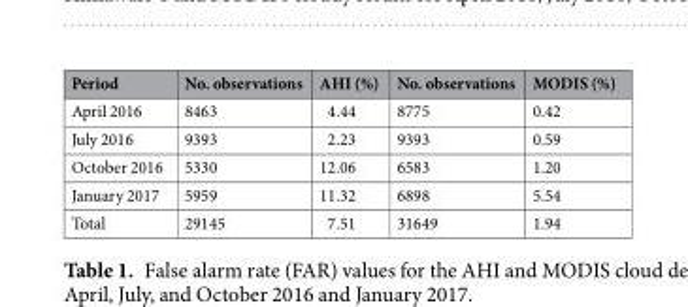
<table><thead><tr><td>Period</td><td>No. observations</td><td>AHI (%)</td><td>No. observations</td><td>MODIS (%)</td></tr></thead><tbody><tr><td>April 2016</td><td>8463</td><td>4.44</td><td>8775</td><td>0.42</td></tr><tr><td>July 2016</td><td>9393</td><td>2.23</td><td>9393</td><td>0.59</td></tr><tr><td>October 2016</td><td>5330</td><td>12.06</td><td>6583</td><td>1.20</td></tr><tr><td>January 2017</td><td>5959</td><td>11.32</td><td>6898</td><td>5.54</td></tr><tr><td>Total</td><td>29145</td><td>7.51</td><td>31649</td><td>1.94</td></tr></tbody></table>